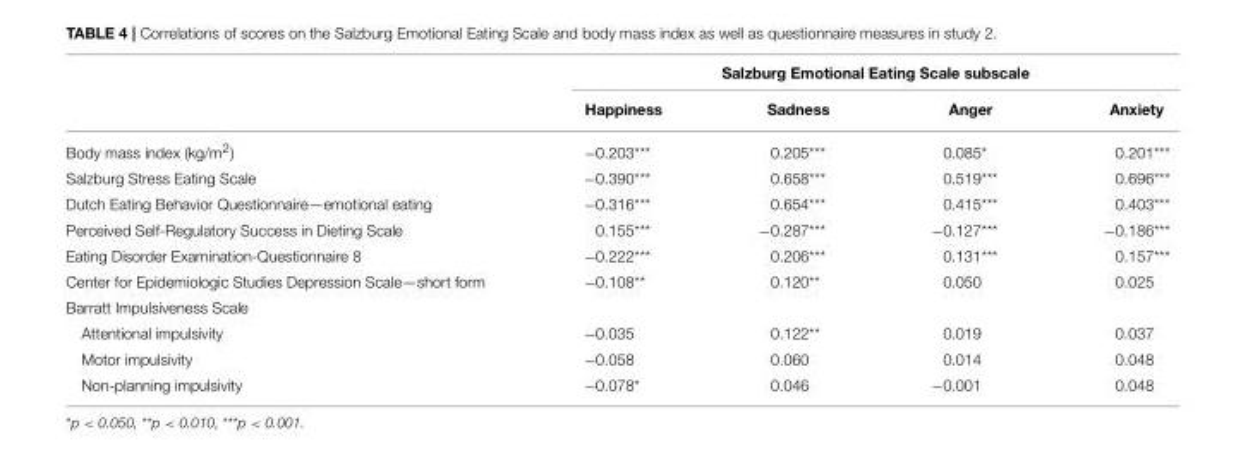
<table><thead><tr><td rowspan="2"></td><td colspan="4">Salzburg Emotional Eating Scale subscale</td></tr><tr><td>Happiness</td><td>Sadness</td><td>Anger</td><td>Anxiety</td></tr></thead><tbody><tr><td>Body mass index (kg/m<sup>2</sup>)</td><td>−0.203***</td><td>0.205***</td><td>0.085*</td><td>0.201***</td></tr><tr><td>Salzburg Stress Eating Scale</td><td>−0.390***</td><td>0.658***</td><td>0.519***</td><td>0.696***</td></tr><tr><td>Dutch Eating Behavior Questionnaire—emotional eating</td><td>−0.316***</td><td>0.654***</td><td>0.415***</td><td>0.403***</td></tr><tr><td>Perceived Self-Regulatory Success in Dieting Scale</td><td>0.155***</td><td>−0.287***</td><td>−0.127***</td><td>−0.186***</td></tr><tr><td>Eating Disorder Examination-Questionnaire 8</td><td>−0.222***</td><td>0.206***</td><td>0.131***</td><td>0.157***</td></tr><tr><td>Center for Epidemiologic Studies Depression Scale—short form</td><td>−0.108**</td><td>0.120**</td><td>0.050</td><td>0.025</td></tr><tr><td colspan="5">Barratt Impulsiveness Scale</td></tr><tr><td>Attentional impulsivity</td><td>−0.035</td><td>0.122**</td><td>0.019</td><td>0.037</td></tr><tr><td>Motor impulsivity</td><td>−0.058</td><td>0.060</td><td>0.014</td><td>0.048</td></tr><tr><td>Non-planning impulsivity</td><td>−0.078*</td><td>0.046</td><td>−0.001</td><td>0.048</td></tr></tbody></table>